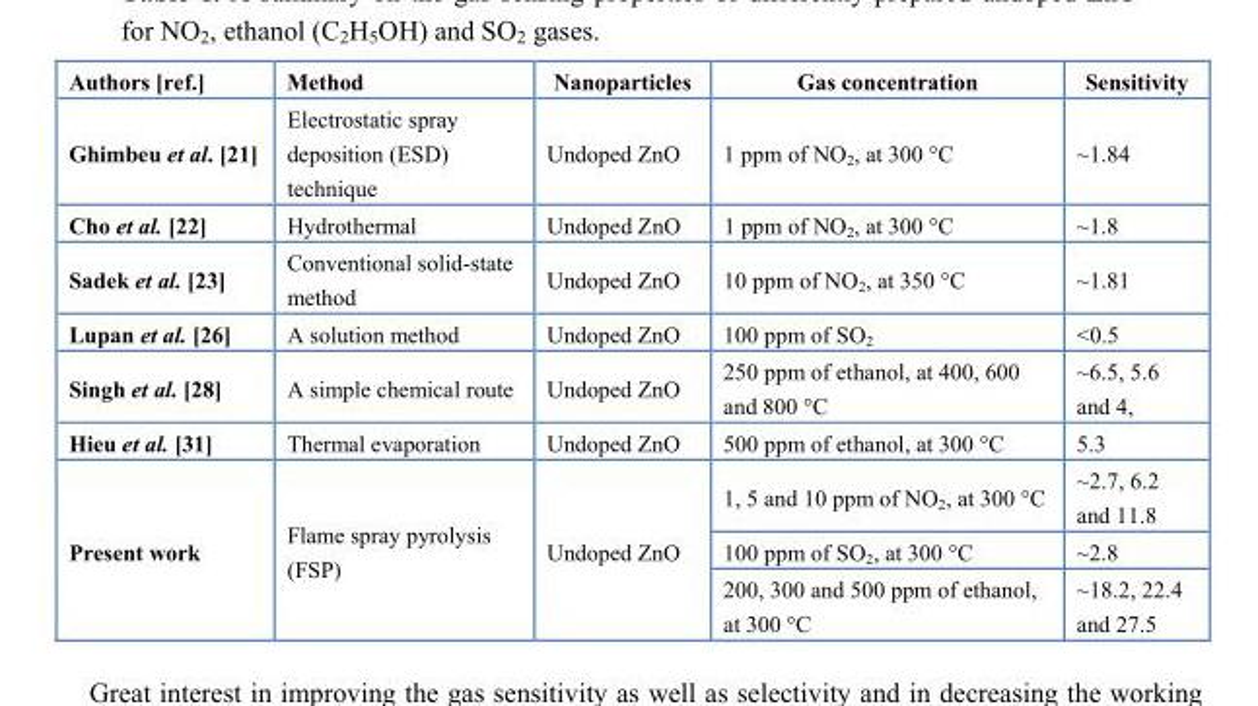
<table><thead><tr><td>Authors [ref.]</td><td>Method</td><td>Nanoparticles</td><td>Gas concentration</td><td>Sensitivity</td></tr></thead><tbody><tr><td>Ghimbeu et al. [21]</td><td>Electrostatic spray deposition (ESD) technique</td><td>Undoped ZnO</td><td>1 ppm of NO<sub>2</sub>, at 300 °C</td><td>~1.84</td></tr><tr><td>Cho et al. [22]</td><td>Hydrothermal</td><td>Undoped ZnO</td><td>1 ppm of NO<sub>2</sub>, at 300 °C</td><td>~1.8</td></tr><tr><td>Sadek et al. [23]</td><td>Conventional solid-state method</td><td>Undoped ZnO</td><td>10 ppm of NO<sub>2</sub>, at 350 °C</td><td>~1.81</td></tr><tr><td>Lupan et al. [26]</td><td>A solution method</td><td>Undoped ZnO</td><td>100 ppm of SO<sub>2</sub></td><td>&lt;0.5</td></tr><tr><td>Singh et al. [28]</td><td>A simple chemical route</td><td>Undoped ZnO</td><td>250 ppm of ethanol, at 400, 600 and 800 °C</td><td>~6.5, 5.6 and 4,</td></tr><tr><td>Hieu et al. [31]</td><td>Thermal evaporation</td><td>Undoped ZnO</td><td>500 ppm of ethanol, at 300 °C</td><td>5.3</td></tr><tr><td rowspan="3">Present work</td><td rowspan="3">Flame spray pyrolysis (FSP)</td><td rowspan="3">Undoped ZnO</td><td>1, 5 and 10 ppm of NO<sub>2</sub>, at 300 °C</td><td>~2.7, 6.2 and 11.8</td></tr><tr><td>100 ppm of SO<sub>2</sub>, at 300 °C</td><td>~2.8</td></tr><tr><td>200, 300 and 500 ppm of ethanol, at 300 °C</td><td>~18.2, 22.4 and 27.5</td></tr></tbody></table>